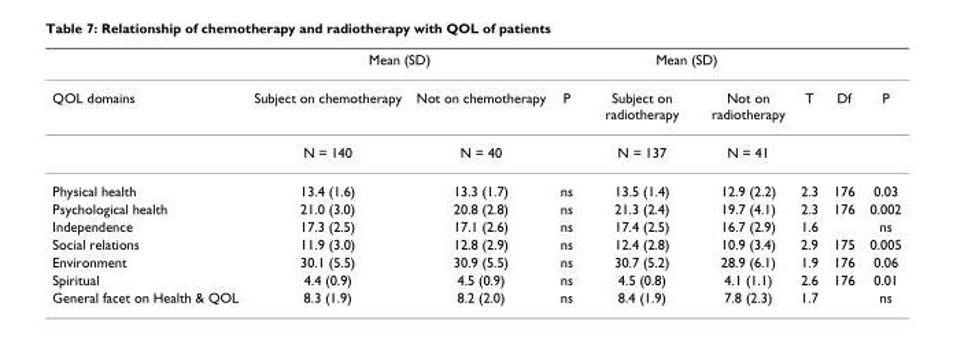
<table><thead><tr><td rowspan="2">QOL domains</td><td colspan="2">Mean (SD)</td><td rowspan="2">P</td><td colspan="2">Mean (SD)</td><td rowspan="2">T</td><td rowspan="2">Df</td><td rowspan="2">P</td></tr><tr><td>Subject on chemotherapy</td><td>Not on chemotherapy</td><td>Subject on radiotherapy</td><td>Not on radiotherapy</td></tr></thead><tbody><tr><td></td><td>N = 140</td><td>N = 40</td><td></td><td>N = 137</td><td>N = 41</td><td></td><td></td><td></td></tr><tr><td>Physical health</td><td>13.4 (1.6)</td><td>13.3 (1.7)</td><td>ns</td><td>13.5 (1.4)</td><td>12.9 (2.2)</td><td>2.3</td><td>176</td><td>0.03</td></tr><tr><td>Psychological health</td><td>21.0 (3.0)</td><td>20.8 (2.8)</td><td>ns</td><td>21.3 (2.4)</td><td>19.7 (4.1)</td><td>2.3</td><td>176</td><td>0.002</td></tr><tr><td>Independence</td><td>17.3 (2.5)</td><td>17.1 (2.6)</td><td>ns</td><td>17.4 (2.5)</td><td>16.7 (2.9)</td><td>1.6</td><td></td><td>ns</td></tr><tr><td>Social relations</td><td>11.9 (3.0)</td><td>12.8 (2.9)</td><td>ns</td><td>12.4 (2.8)</td><td>10.9 (3.4)</td><td>2.9</td><td>175</td><td>0.005</td></tr><tr><td>Environment</td><td>30.1 (5.5)</td><td>30.9 (5.5)</td><td>ns</td><td>30.7 (5.2)</td><td>28.9 (6.1)</td><td>1.9</td><td>176</td><td>0.06</td></tr><tr><td>Spiritual</td><td>4.4 (0.9)</td><td>4.5 (0.9)</td><td>ns</td><td>4.5 (0.8)</td><td>4.1 (1.1)</td><td>2.6</td><td>176</td><td>0.01</td></tr><tr><td>General facet on Health &amp; QOL</td><td>8.3 (1.9)</td><td>8.2 (2.0)</td><td>ns</td><td>8.4 (1.9)</td><td>7.8 (2.3)</td><td>1.7</td><td></td><td>ns</td></tr></tbody></table>